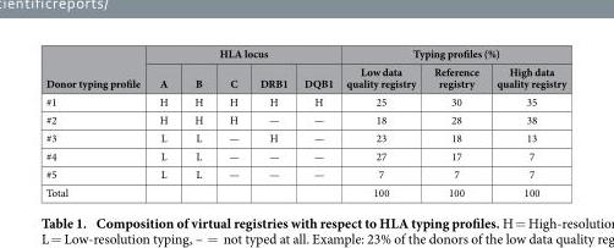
<table><thead><tr><td rowspan="2">Donor typing profile</td><td colspan="5">HLA locus</td><td colspan="3">Typing profiles (%)</td></tr><tr><td>A</td><td>B</td><td>C</td><td>DRB1</td><td>DQB1</td><td>Low data quality registry</td><td>Reference registry</td><td>High data quality registry</td></tr></thead><tbody><tr><td>#1</td><td>H</td><td>H</td><td>H</td><td>H</td><td>H</td><td>25</td><td>30</td><td>35</td></tr><tr><td>#2</td><td>H</td><td>H</td><td>H</td><td>—</td><td>—</td><td>18</td><td>28</td><td>38</td></tr><tr><td>#3</td><td>L</td><td>L</td><td>—</td><td>H</td><td>—</td><td>23</td><td>18</td><td>13</td></tr><tr><td>#4</td><td>L</td><td>L</td><td>—</td><td>—</td><td>—</td><td>27</td><td>17</td><td>7</td></tr><tr><td>#5</td><td>L</td><td>L</td><td>—</td><td>—</td><td>—</td><td>7</td><td>7</td><td>7</td></tr><tr><td>Total</td><td></td><td></td><td></td><td></td><td></td><td>100</td><td>100</td><td>100</td></tr></tbody></table>